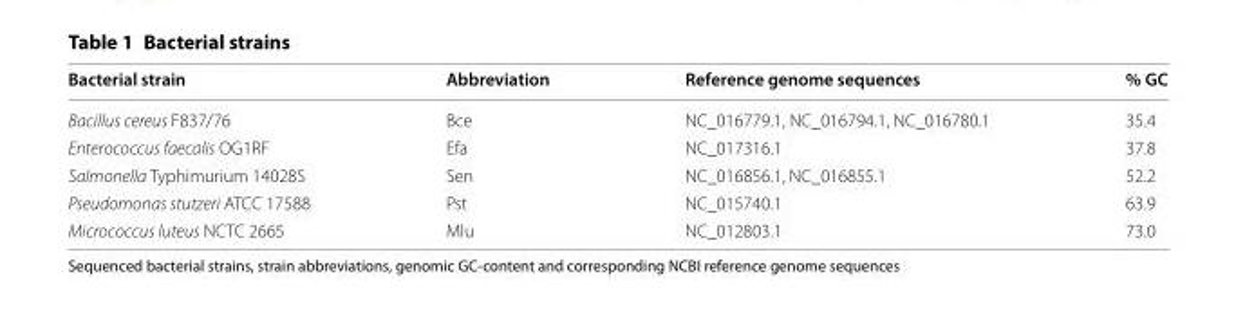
<table><thead><tr><td>Bacterial strain</td><td>Abbreviation</td><td>Reference genome sequences</td><td>% GC</td></tr></thead><tbody><tr><td>Bacillus cereus F837/76</td><td>Bce</td><td>NC_016779.1, NC_016794.1, NC_016780.1</td><td>35.4</td></tr><tr><td>Enterococcus faecalis OG1RF</td><td>Efa</td><td>NC_017316.1</td><td>37.8</td></tr><tr><td>Salmonella Typhimurium 14028S</td><td>Sen</td><td>NC_016856.1, NC_016855.1</td><td>52.2</td></tr><tr><td>Pseudomonas stutzeri ATCC 17588</td><td>Pst</td><td>NC_015740.1</td><td>63.9</td></tr><tr><td>Micrococcus luteus NCTC 2665</td><td>Mlu</td><td>NC_012803.1</td><td>73.0</td></tr></tbody></table>